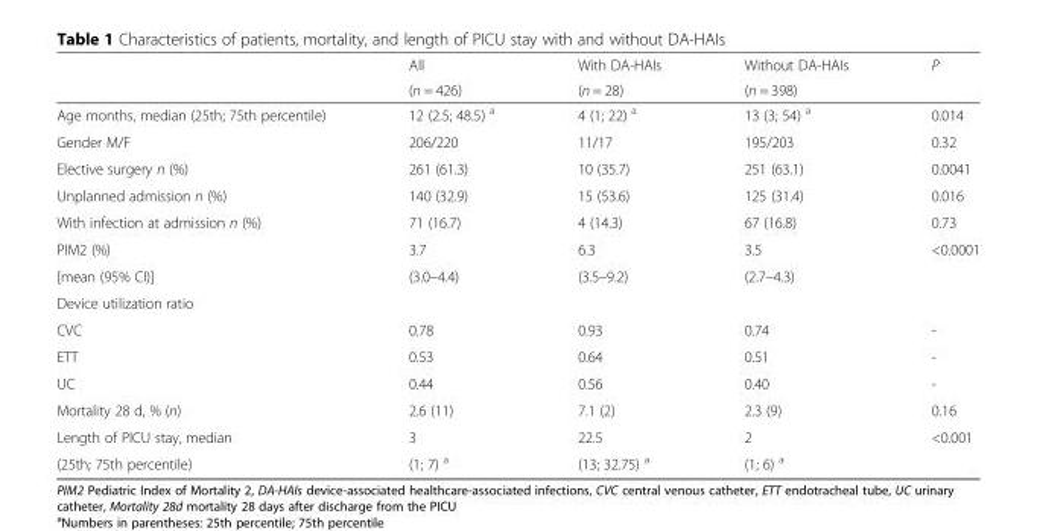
<table><thead><tr><td rowspan="2"></td><td rowspan="2">All (n = 426)</td><td rowspan="2">With DA-HAIs (n = 28)</td><td rowspan="2">Without DA-HAIs (n = 398)</td><td rowspan="2">P</td></tr><tr></tr></thead><tbody><tr><td>Age months, median (25th; 75th percentile)</td><td>12 (2.5; 48.5) <sup>a</sup></td><td>4 (1; 22) <sup>a</sup></td><td>13 (3; 54) <sup>a</sup></td><td>0.014</td></tr><tr><td>Gender M/F</td><td>206/220</td><td>11/17</td><td>195/203</td><td>0.32</td></tr><tr><td>Elective surgery n (%)</td><td>261 (61.3)</td><td>10 (35.7)</td><td>251 (63.1)</td><td>0.0041</td></tr><tr><td>Unplanned admission n (%)</td><td>140 (32.9)</td><td>15 (53.6)</td><td>125 (31.4)</td><td>0.016</td></tr><tr><td>With infection at admission n (%)</td><td>71 (16.7)</td><td>4 (14.3)</td><td>67 (16.8)</td><td>0.73</td></tr><tr><td>PIM2 (%)</td><td>3.7</td><td>6.3</td><td>3.5</td><td rowspan="2">&lt;0.0001</td></tr><tr><td>[mean (95% CI)]</td><td>(3.0–4.4)</td><td>(3.5–9.2)</td><td>(2.7–4.3)</td></tr><tr><td colspan="5">Device utilization ratio</td></tr><tr><td>CVC</td><td>0.78</td><td>0.93</td><td>0.74</td><td>-</td></tr><tr><td>ETT</td><td>0.53</td><td>0.64</td><td>0.51</td><td>-</td></tr><tr><td>UC</td><td>0.44</td><td>0.56</td><td>0.40</td><td>-</td></tr><tr><td>Mortality 28 d, % (n)</td><td>2.6 (11)</td><td>7.1 (2)</td><td>2.3 (9)</td><td>0.16</td></tr><tr><td>Length of PICU stay, median</td><td>3</td><td>22.5</td><td>2</td><td rowspan="2">&lt;0.001</td></tr><tr><td>(25th; 75th percentile)</td><td>(1; 7) <sup>a</sup></td><td>(13; 32.75) <sup>a</sup></td><td>(1; 6) <sup>a</sup></td></tr></tbody></table>